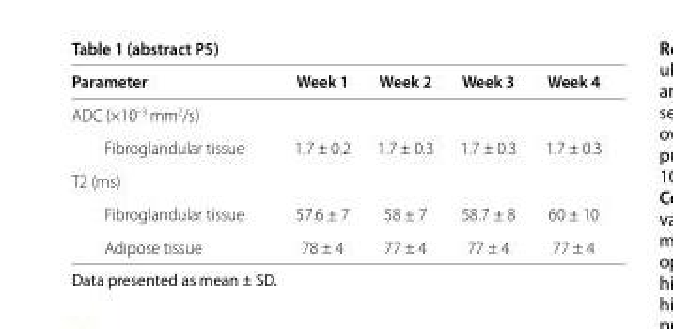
<table><thead><tr><td>Parameter</td><td>Week 1</td><td>Week 2</td><td>Week 3</td><td>Week 4</td></tr></thead><tbody><tr><td colspan="5">ADC (×10<sup>–3</sup> mm<sup>2</sup>/s)</td></tr><tr><td>Fibroglandular tissue</td><td>1.7 ± 0.2</td><td>1.7 ± 0.3</td><td>1.7 ± 0.3</td><td>1.7 ± 0.3</td></tr><tr><td colspan="5">T2 (ms)</td></tr><tr><td>Fibroglandular tissue</td><td>57.6 ± 7</td><td>58 ± 7</td><td>58.7 ± 8</td><td>60 ± 10</td></tr><tr><td>Adipose tissue</td><td>78 ± 4</td><td>77 ± 4</td><td>77 ± 4</td><td>77 ± 4</td></tr></tbody></table>